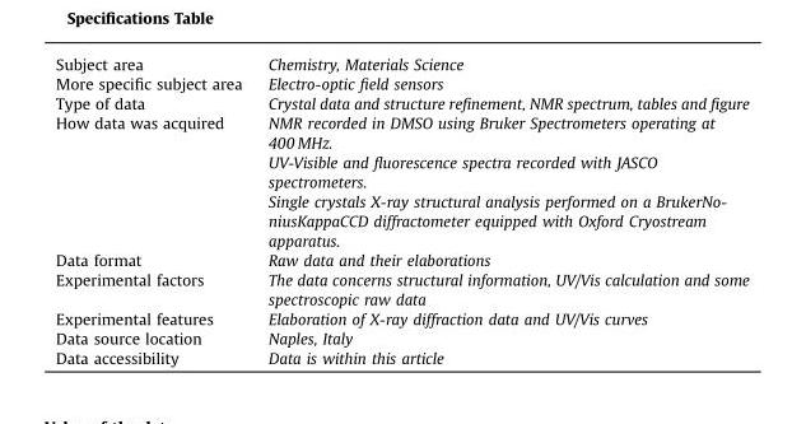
<table><tbody><tr><td>Subject area</td><td>Chemistry, Materials Science</td></tr><tr><td>More specific subject area</td><td>Electro-optic field sensors</td></tr><tr><td>Type of data</td><td>Crystal data and structure refinement, NMR spectrum, tables and figure</td></tr><tr><td rowspan="3">How data was acquired</td><td>NMR recorded in DMSO using Bruker Spectrometers operating at 400 MHz.</td></tr><tr><td>UV-Visible and fluorescence spectra recorded with JASCO spectrometers.</td></tr><tr><td>Single crystals X-ray structural analysis performed on a BrukerNo- niusKappaCCD diffractometer equipped with Oxford Cryostream apparatus.</td></tr><tr><td>Data format</td><td>Raw data and their elaborations</td></tr><tr><td>Experimental factors</td><td>The data concerns structural information, UV/Vis calculation and some spectroscopic raw data</td></tr><tr><td>Experimental features</td><td>Elaboration of X-ray diffraction data and UV/Vis curves</td></tr><tr><td>Data source location</td><td>Naples, Italy</td></tr><tr><td>Data accessibility</td><td>Data is within this article</td></tr></tbody></table>